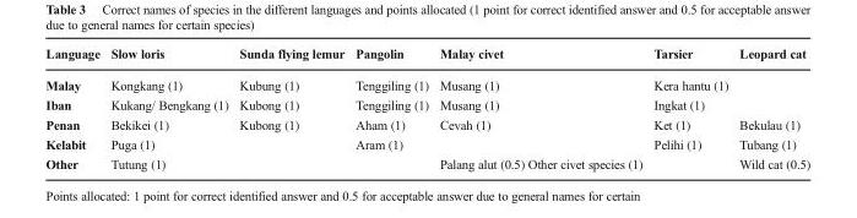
<table><thead><tr><td>Language</td><td>Slow loris</td><td>Sunda flying lemur</td><td>Pangolin</td><td>Malay civet</td><td>Tarsier</td><td>Leopard cat</td></tr></thead><tbody><tr><td>Malay</td><td>Kongkang (1)</td><td>Kubung (1)</td><td>Tenggiling (1)</td><td>Musang (1)</td><td>Kera hantu (1)</td><td></td></tr><tr><td>Iban</td><td>Kukang/ Bengkang (1)</td><td>Kubong (1)</td><td>Tenggiling (1)</td><td>Musang (1)</td><td>Ingkat (1)</td><td></td></tr><tr><td>Penan</td><td>Bekikei (1)</td><td>Kubong (1)</td><td>Aham (1)</td><td>Cevah (1)</td><td>Ket (1)</td><td>Bekulau (1)</td></tr><tr><td>Kelabit</td><td>Puga (1)</td><td></td><td>Aram (1)</td><td></td><td>Pelihi (1)</td><td>Tubang (1)</td></tr><tr><td>Other</td><td>Tutung (1)</td><td></td><td></td><td>Palang alut (0.5) Other civet species (1)</td><td></td><td>Wild cat (0.5)</td></tr></tbody></table>